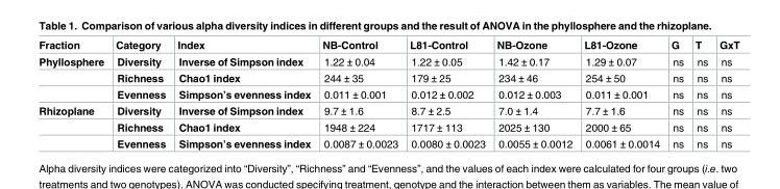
<table><thead><tr><td>Fraction</td><td>Category</td><td>Index</td><td>NB-Control</td><td>L81-Control</td><td>NB-Ozone</td><td>L81-Ozone</td><td>G</td><td>T</td><td>GxT</td></tr></thead><tbody><tr><td rowspan="3">Phyllosphere</td><td>Diversity</td><td>Inverse of Simpson index</td><td>1.22 ± 0.04</td><td>1.22 ± 0.05</td><td>1.42 ± 0.17</td><td>1.29 ± 0.07</td><td>ns</td><td>ns</td><td>ns</td></tr><tr><td>Richness</td><td>Chao1 index</td><td>244 ± 35</td><td>179 ± 25</td><td>234 ± 46</td><td>254 ± 50</td><td>ns</td><td>ns</td><td>ns</td></tr><tr><td>Evenness</td><td>Simpson’s evenness index</td><td>0.011 ± 0.001</td><td>0.012 ± 0.002</td><td>0.012 ± 0.003</td><td>0.011 ± 0.001</td><td>ns</td><td>ns</td><td>ns</td></tr><tr><td rowspan="3">Rhizoplane</td><td>Diversity</td><td>Inverse of Simpson index</td><td>9.7 ± 1.6</td><td>8.7 ± 2.5</td><td>7.0 ± 1.4</td><td>7.7 ± 1.6</td><td>ns</td><td>ns</td><td>ns</td></tr><tr><td>Richness</td><td>Chao1 index</td><td>1948 ± 224</td><td>1717 ± 113</td><td>2025 ± 130</td><td>2000 ± 65</td><td>ns</td><td>ns</td><td>ns</td></tr><tr><td>Evenness</td><td>Simpson’s evenness index</td><td>0.0087 ± 0.0023</td><td>0.0080 ± 0.0023</td><td>0.0055 ± 0.0012</td><td>0.0061 ± 0.0014</td><td>ns</td><td>ns</td><td>ns</td></tr></tbody></table>